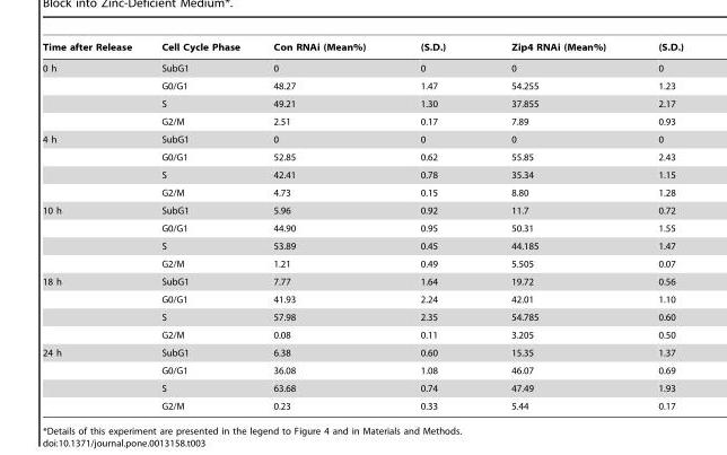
<table><thead><tr><td>Time after Release</td><td>Cell Cycle Phase</td><td>Con RNAi (Mean%)</td><td>(S.D.)</td><td>Zip4 RNAi (Mean%)</td><td>(S.D.)</td></tr></thead><tbody><tr><td rowspan="4">0 h</td><td>SubG1</td><td>0</td><td>0</td><td>0</td><td>0</td></tr><tr><td>G0/G1</td><td>48.27</td><td>1.47</td><td>54.255</td><td>1.23</td></tr><tr><td>S</td><td>49.21</td><td>1.30</td><td>37.855</td><td>2.17</td></tr><tr><td>G2/M</td><td>2.51</td><td>0.17</td><td>7.89</td><td>0.93</td></tr><tr><td rowspan="4">4 h</td><td>SubG1</td><td>0</td><td>0</td><td>0</td><td>0</td></tr><tr><td>G0/G1</td><td>52.85</td><td>0.62</td><td>55.85</td><td>2.43</td></tr><tr><td>S</td><td>42.41</td><td>0.78</td><td>35.34</td><td>1.15</td></tr><tr><td>G2/M</td><td>4.73</td><td>0.15</td><td>8.80</td><td>1.28</td></tr><tr><td rowspan="4">10 h</td><td>SubG1</td><td>5.96</td><td>0.92</td><td>11.7</td><td>0.72</td></tr><tr><td>G0/G1</td><td>44.90</td><td>0.95</td><td>50.31</td><td>1.55</td></tr><tr><td>S</td><td>53.89</td><td>0.45</td><td>44.185</td><td>1.47</td></tr><tr><td>G2/M</td><td>1.21</td><td>0.49</td><td>5.505</td><td>0.07</td></tr><tr><td rowspan="4">18 h</td><td>SubG1</td><td>7.77</td><td>1.64</td><td>19.72</td><td>0.56</td></tr><tr><td>G0/G1</td><td>41.93</td><td>2.24</td><td>42.01</td><td>1.10</td></tr><tr><td>S</td><td>57.98</td><td>2.35</td><td>54.785</td><td>0.60</td></tr><tr><td>G2/M</td><td>0.08</td><td>0.11</td><td>3.205</td><td>0.50</td></tr><tr><td rowspan="4">24 h</td><td>SubG1</td><td>6.38</td><td>0.60</td><td>15.35</td><td>1.37</td></tr><tr><td>G0/G1</td><td>36.08</td><td>1.08</td><td>46.07</td><td>0.69</td></tr><tr><td>S</td><td>63.68</td><td>0.74</td><td>47.49</td><td>1.93</td></tr><tr><td>G2/M</td><td>0.23</td><td>0.33</td><td>5.44</td><td>0.17</td></tr></tbody></table>